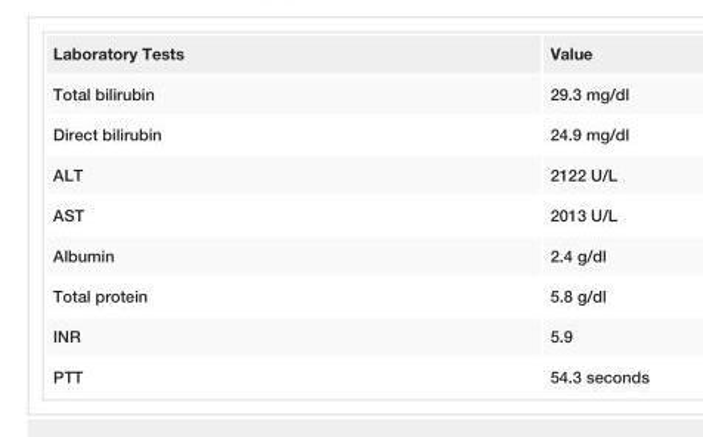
<table><tbody><tr><td>Laboratory Tests</td><td>Value</td></tr><tr><td>Total bilirubin</td><td>29.3 mg/dl</td></tr><tr><td>Direct bilirubin</td><td>24.9 mg/dl</td></tr><tr><td>ALT</td><td>2122 U/L</td></tr><tr><td>AST</td><td>2013 U/L</td></tr><tr><td>Albumin</td><td>2.4 g/dl</td></tr><tr><td>Total protein</td><td>5.8 g/dl</td></tr><tr><td>INR</td><td>5.9</td></tr><tr><td>PTT</td><td>54.3 seconds</td></tr></tbody></table>